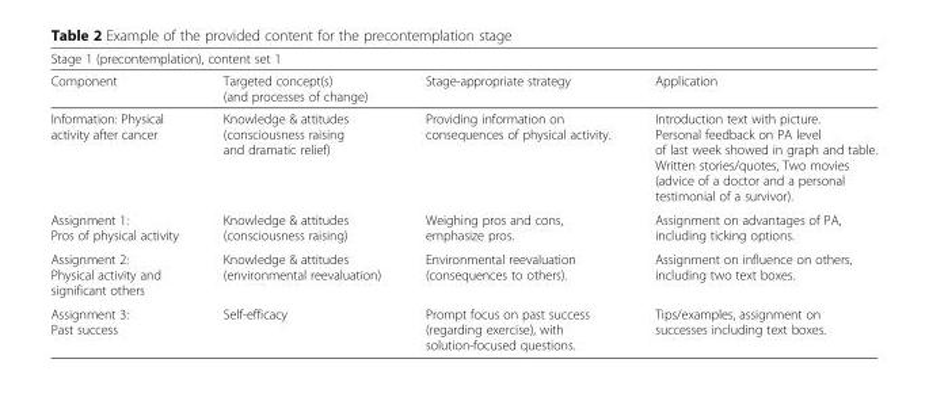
<table><thead><tr><td colspan="4">Stage 1 (precontemplation), content set 1</td></tr><tr><td>Component</td><td>Targeted concept(s) (and processes of change)</td><td>Stage-appropriate strategy</td><td>Application</td></tr></thead><tbody><tr><td>Information: Physical activity after cancer</td><td>Knowledge &amp; attitudes (consciousness raising and dramatic relief)</td><td>Providing information on consequences of physical activity.</td><td>Introduction text with picture. Personal feedback on PA level of last week showed in graph and table. Written stories/quotes, Two movies (advice of a doctor and a personal testimonial of a survivor).</td></tr><tr><td>Assignment 1: Pros of physical activity</td><td>Knowledge &amp; attitudes (consciousness raising)</td><td>Weighing pros and cons, emphasize pros.</td><td>Assignment on advantages of PA, including ticking options.</td></tr><tr><td>Assignment 2: Physical activity and significant others</td><td>Knowledge &amp; attitudes (environmental reevaluation)</td><td>Environmental reevaluation (consequences to others).</td><td>Assignment on influence on others, including two text boxes.</td></tr><tr><td>Assignment 3: Past success</td><td>Self-efficacy</td><td>Prompt focus on past success (regarding exercise), with solution-focused questions.</td><td>Tips/examples, assignment on successes including text boxes.</td></tr></tbody></table>